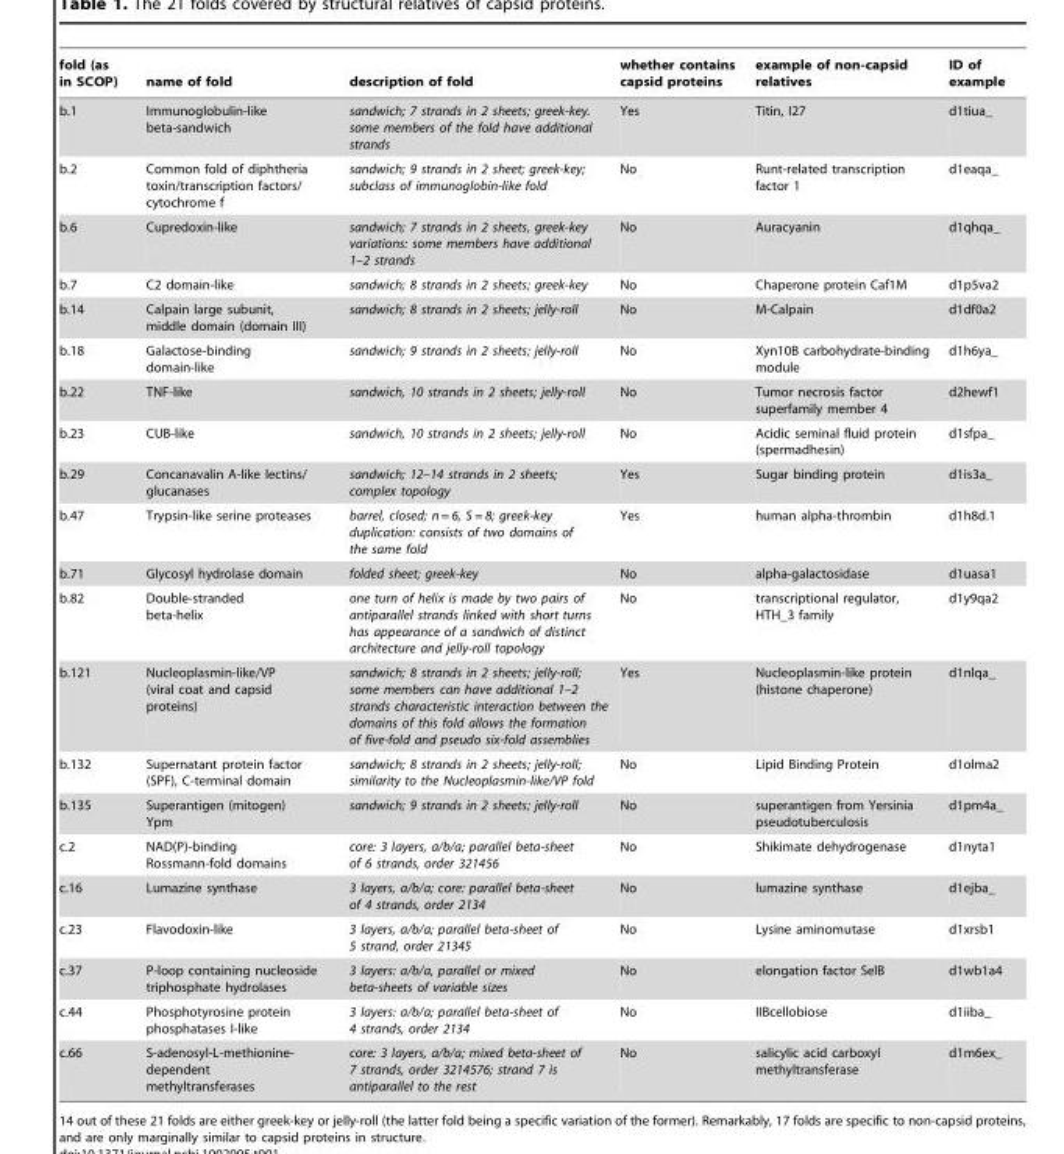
<table><thead><tr><td>fold (as in SCOP)</td><td>name of fold</td><td>description of fold</td><td>whether contains capsid proteins</td><td>example of non-capsid relatives</td><td>ID of example</td></tr></thead><tbody><tr><td>b.1</td><td>Immunoglobulin-like beta-sandwich</td><td>sandwich; 7 strands in 2 sheets; greek-key. some members of the fold have additional strands</td><td>Yes</td><td>Titin, I27</td><td>d1tiua_</td></tr><tr><td>b.2</td><td>Common fold of diphtheria toxin/transcription factors/ cytochrome f</td><td>sandwich; 9 strands in 2 sheet; greek-key; subclass of immunoglobin-like fold</td><td>No</td><td>Runt-related transcription factor 1</td><td>d1eaqa_</td></tr><tr><td>b.6</td><td>Cupredoxin-like</td><td>sandwich; 7 strands in 2 sheets, greek-key variations: some members have additional 1–2 strands</td><td>No</td><td>Auracyanin</td><td>d1qhqa_</td></tr><tr><td>b.7</td><td>C2 domain-like</td><td>sandwich; 8 strands in 2 sheets; greek-key</td><td>No</td><td>Chaperone protein Caf1M</td><td>d1p5va2</td></tr><tr><td>b.14</td><td>Calpain large subunit, middle domain (domain III)</td><td>sandwich; 8 strands in 2 sheets; jelly-roll</td><td>No</td><td>M-Calpain</td><td>d1df0a2</td></tr><tr><td>b.18</td><td>Galactose-binding domain-like</td><td>sandwich; 9 strands in 2 sheets; jelly-roll</td><td>No</td><td>Xyn10B carbohydrate-binding module</td><td>d1h6ya_</td></tr><tr><td>b.22</td><td>TNF-like</td><td>sandwich, 10 strands in 2 sheets; jelly-roll</td><td>No</td><td>Tumor necrosis factor superfamily member 4</td><td>d2hewf1</td></tr><tr><td>b.23</td><td>CUB-like</td><td>sandwich, 10 strands in 2 sheets; jelly-roll</td><td>No</td><td>Acidic seminal fluid protein (spermadhesin)</td><td>d1sfpa_</td></tr><tr><td>b.29</td><td>Concanavalin A-like lectins/ glucanases</td><td>sandwich; 12–14 strands in 2 sheets; complex topology</td><td>Yes</td><td>Sugar binding protein</td><td>d1is3a_</td></tr><tr><td>b.47</td><td>Trypsin-like serine proteases</td><td>barrel, closed; n = 6, S = 8; greek-key duplication: consists of two domains of the same fold</td><td>Yes</td><td>human alpha-thrombin</td><td>d1h8d.1</td></tr><tr><td>b.71</td><td>Glycosyl hydrolase domain</td><td>folded sheet; greek-key</td><td>No</td><td>alpha-galactosidase</td><td>d1uasa1</td></tr><tr><td>b.82</td><td>Double-stranded beta-helix</td><td>one turn of helix is made by two pairs of antiparallel strands linked with short turns has appearance of a sandwich of distinct architecture and jelly-roll topology</td><td>No</td><td>transcriptional regulator, HTH_3 family</td><td>d1y9qa2</td></tr><tr><td>b.121</td><td>Nucleoplasmin-like/VP (viral coat and capsid proteins)</td><td>sandwich; 8 strands in 2 sheets; jelly-roll; some members can have additional 1–2 strands characteristic interaction between the domains of this fold allows the formation of five-fold and pseudo six-fold assemblies</td><td>Yes</td><td>Nucleoplasmin-like protein (histone chaperone)</td><td>d1nlqa_</td></tr><tr><td>b.132</td><td>Supernatant protein factor (SPF), C-terminal domain</td><td>sandwich; 8 strands in 2 sheets; jelly-roll; similarity to the Nucleoplasmin-like/VP fold</td><td>No</td><td>Lipid Binding Protein</td><td>d1olma2</td></tr><tr><td>b.135</td><td>Superantigen (mitogen) Ypm</td><td>sandwich; 9 strands in 2 sheets; jelly-roll</td><td>No</td><td>superantigen from Yersinia pseudotuberculosis</td><td>d1pm4a_</td></tr><tr><td>c.2</td><td>NAD(P)-binding Rossmann-fold domains</td><td>core: 3 layers, a/b/a; parallel beta-sheet of 6 strands, order 321456</td><td>No</td><td>Shikimate dehydrogenase</td><td>d1nyta1</td></tr><tr><td>c.16</td><td>Lumazine synthase</td><td>3 layers, a/b/a; core: parallel beta-sheet of 4 strands, order 2134</td><td>No</td><td>lumazine synthase</td><td>d1ejba_</td></tr><tr><td>c.23</td><td>Flavodoxin-like</td><td>3 layers, a/b/a; parallel beta-sheet of 5 strand, order 21345</td><td>No</td><td>Lysine aminomutase</td><td>d1xrsb1</td></tr><tr><td>c.37</td><td>P-loop containing nucleoside triphosphate hydrolases</td><td>3 layers: a/b/a, parallel or mixed beta-sheets of variable sizes</td><td>No</td><td>elongation factor SelB</td><td>d1wb1a4</td></tr><tr><td>c.44</td><td>Phosphotyrosine protein phosphatases I-like</td><td>3 layers: a/b/a; parallel beta-sheet of 4 strands, order 2134</td><td>No</td><td>IIBcellobiose</td><td>d1iiba_</td></tr><tr><td>c.66</td><td>S-adenosyl-L-methionine- dependent methyltransferases</td><td>core: 3 layers, a/b/a; mixed beta-sheet of 7 strands, order 3214576; strand 7 is antiparallel to the rest</td><td>No</td><td>salicylic acid carboxyl methyltransferase</td><td>d1m6ex_</td></tr></tbody></table>